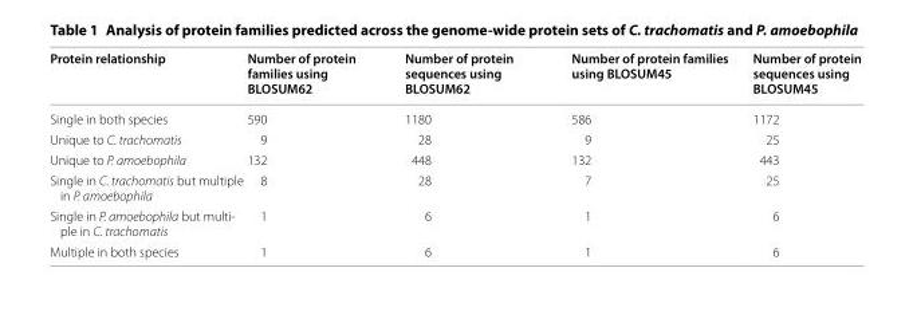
<table><thead><tr><td>Protein relationship</td><td>Number of protein families using BLOSUM62</td><td>Number of protein sequences using BLOSUM62</td><td>Number of protein families using BLOSUM45</td><td>Number of protein sequences using BLOSUM45</td></tr></thead><tbody><tr><td>Single in both species</td><td>590</td><td>1180</td><td>586</td><td>1172</td></tr><tr><td>Unique to C. trachomatis</td><td>9</td><td>28</td><td>9</td><td>25</td></tr><tr><td>Unique to P. amoebophila</td><td>132</td><td>448</td><td>132</td><td>443</td></tr><tr><td>Single in C. trachomatis but multiple in P. amoebophila</td><td>8</td><td>28</td><td>7</td><td>25</td></tr><tr><td>Single in P. amoebophila but multi- ple in C. trachomatis</td><td>1</td><td>6</td><td>1</td><td>6</td></tr><tr><td>Multiple in both species</td><td>1</td><td>6</td><td>1</td><td>6</td></tr></tbody></table>